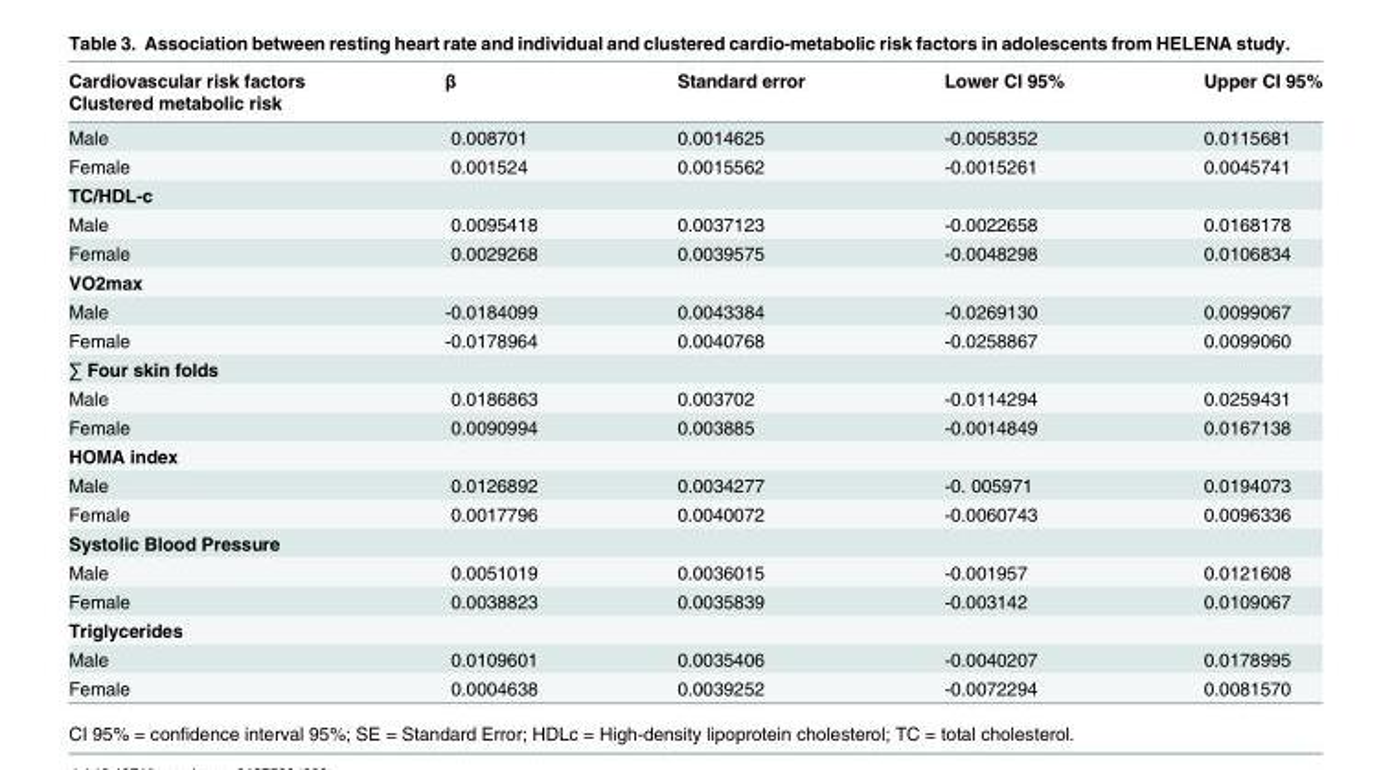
<table><thead><tr><td rowspan="2">Cardiovascular risk factors Clustered metabolic risk</td><td rowspan="2">β</td><td rowspan="2">Standard error</td><td rowspan="2">Lower CI 95%</td><td rowspan="2">Upper CI 95%</td></tr><tr></tr></thead><tbody><tr><td>Male</td><td>0.008701</td><td>0.0014625</td><td>-0.0058352</td><td>0.0115681</td></tr><tr><td>Female</td><td>0.001524</td><td>0.0015562</td><td>-0.0015261</td><td>0.0045741</td></tr><tr><td colspan="5">TC/HDL-c</td></tr><tr><td>Male</td><td>0.0095418</td><td>0.0037123</td><td>-0.0022658</td><td>0.0168178</td></tr><tr><td>Female</td><td>0.0029268</td><td>0.0039575</td><td>-0.0048298</td><td>0.0106834</td></tr><tr><td colspan="5">VO2max</td></tr><tr><td>Male</td><td>-0.0184099</td><td>0.0043384</td><td>-0.0269130</td><td>0.0099067</td></tr><tr><td>Female</td><td>-0.0178964</td><td>0.0040768</td><td>-0.0258867</td><td>0.0099060</td></tr><tr><td colspan="5">∑ Four skin folds</td></tr><tr><td>Male</td><td>0.0186863</td><td>0.003702</td><td>-0.0114294</td><td>0.0259431</td></tr><tr><td>Female</td><td>0.0090994</td><td>0.003885</td><td>-0.0014849</td><td>0.0167138</td></tr><tr><td colspan="5">HOMA index</td></tr><tr><td>Male</td><td>0.0126892</td><td>0.0034277</td><td>-0. 005971</td><td>0.0194073</td></tr><tr><td>Female</td><td>0.0017796</td><td>0.0040072</td><td>-0.0060743</td><td>0.0096336</td></tr><tr><td colspan="5">Systolic Blood Pressure</td></tr><tr><td>Male</td><td>0.0051019</td><td>0.0036015</td><td>-0.001957</td><td>0.0121608</td></tr><tr><td>Female</td><td>0.0038823</td><td>0.0035839</td><td>-0.003142</td><td>0.0109067</td></tr><tr><td colspan="5">Triglycerides</td></tr><tr><td>Male</td><td>0.0109601</td><td>0.0035406</td><td>-0.0040207</td><td>0.0178995</td></tr><tr><td>Female</td><td>0.0004638</td><td>0.0039252</td><td>-0.0072294</td><td>0.0081570</td></tr></tbody></table>